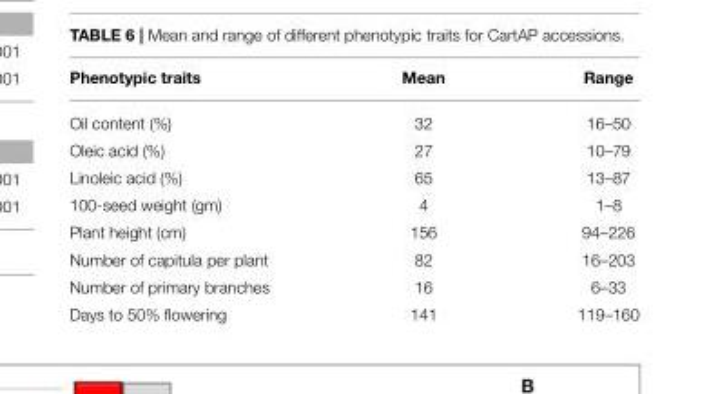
<table><thead><tr><td>Phenotypic traits</td><td>Mean</td><td>Range</td></tr></thead><tbody><tr><td>Oil content (%)</td><td>32</td><td>16–50</td></tr><tr><td>Oleic acid (%)</td><td>27</td><td>10–79</td></tr><tr><td>Linoleic acid (%)</td><td>65</td><td>13–87</td></tr><tr><td>100-seed weight (gm)</td><td>4</td><td>1–8</td></tr><tr><td>Plant height (cm)</td><td>156</td><td>94–226</td></tr><tr><td>Number of capitula per plant</td><td>82</td><td>16–203</td></tr><tr><td>Number of primary branches</td><td>16</td><td>6–33</td></tr><tr><td>Days to 50% flowering</td><td>141</td><td>119–160</td></tr></tbody></table>